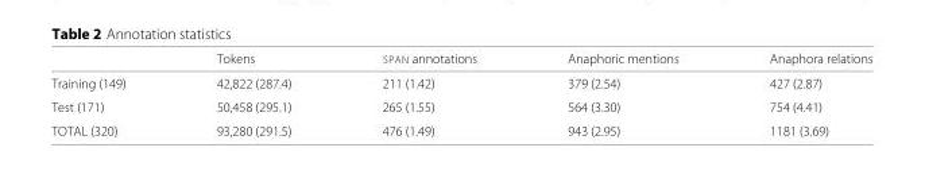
<table><thead><tr><td></td><td>Tokens</td><td>SPAN annotations</td><td>Anaphoric mentions</td><td>Anaphora relations</td></tr></thead><tbody><tr><td>Training (149)</td><td>42,822 (287.4)</td><td>211 (1.42)</td><td>379 (2.54)</td><td>427 (2.87)</td></tr><tr><td>Test (171)</td><td>50,458 (295.1)</td><td>265 (1.55)</td><td>564 (3.30)</td><td>754 (4.41)</td></tr><tr><td>TOTAL (320)</td><td>93,280 (291.5)</td><td>476 (1.49)</td><td>943 (2.95)</td><td>1181 (3.69)</td></tr></tbody></table>